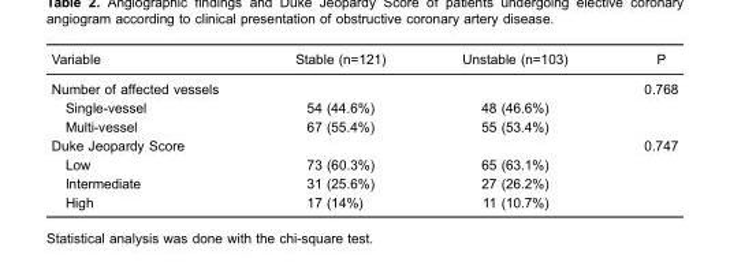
<table><thead><tr><td>Variable</td><td>Stable (n=121)</td><td>Unstable (n=103)</td><td>P</td></tr></thead><tbody><tr><td colspan="3">Number of affected vessels</td><td>0.768</td></tr><tr><td>Single-vessel</td><td>54 (44.6%)</td><td>48 (46.6%)</td><td></td></tr><tr><td>Multi-vessel</td><td>67 (55.4%)</td><td>55 (53.4%)</td><td></td></tr><tr><td colspan="3">Duke Jeopardy Score</td><td>0.747</td></tr><tr><td>Low</td><td>73 (60.3%)</td><td>65 (63.1%)</td><td></td></tr><tr><td>Intermediate</td><td>31 (25.6%)</td><td>27 (26.2%)</td><td></td></tr><tr><td>High</td><td>17 (14%)</td><td>11 (10.7%)</td><td></td></tr></tbody></table>